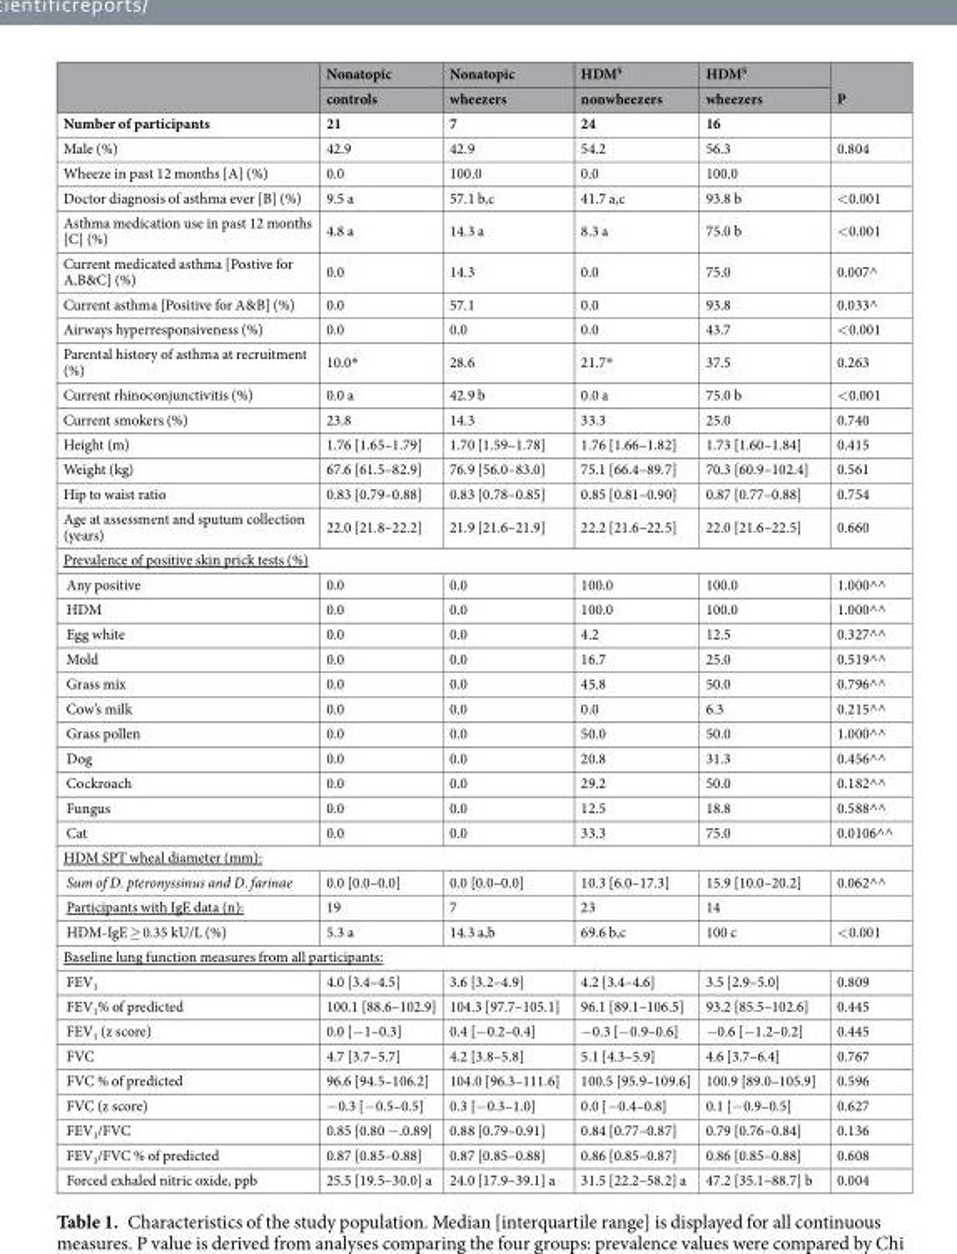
<table><thead><tr><td rowspan="2"></td><td rowspan="2">Nonatopic controls</td><td rowspan="2">Nonatopic wheezers</td><td rowspan="2">HDM<sup>S</sup> nonwheezers</td><td rowspan="2">HDM<sup>S</sup> wheezers</td><td rowspan="2">P</td></tr><tr></tr></thead><tbody><tr><td>Number of participants</td><td>21</td><td>7</td><td>24</td><td>16</td><td></td></tr><tr><td>Male (%)</td><td>42.9</td><td>42.9</td><td>54.2</td><td>56.3</td><td>0.804</td></tr><tr><td>Wheeze in past 12 months [A] (%)</td><td>0.0</td><td>100.0</td><td>0.0</td><td>100.0</td><td></td></tr><tr><td>Doctor diagnosis of asthma ever [B] (%)</td><td>9.5 a</td><td>57.1 b,c</td><td>41.7 a,c</td><td>93.8 b</td><td>&lt;0.001</td></tr><tr><td>Asthma medication use in past 12 months [C] (%)</td><td>4.8 a</td><td>14.3 a</td><td>8.3 a</td><td>75.0 b</td><td>&lt;0.001</td></tr><tr><td>Current medicated asthma [Postive for A,B&amp;C] (%)</td><td>0.0</td><td>14.3</td><td>0.0</td><td>75.0</td><td>0.007^</td></tr><tr><td>Current asthma [Positive for A&amp;B] (%)</td><td>0.0</td><td>57.1</td><td>0.0</td><td>93.8</td><td>0.033^</td></tr><tr><td>Airways hyperresponsiveness (%)</td><td>0.0</td><td>0.0</td><td>0.0</td><td>43.7</td><td>&lt;0.001</td></tr><tr><td>Parental history of asthma at recruitment (%)</td><td>10.0*</td><td>28.6</td><td>21.7*</td><td>37.5</td><td>0.263</td></tr><tr><td>Current rhinoconjunctivitis (%)</td><td>0.0 a</td><td>42.9 b</td><td>0.0 a</td><td>75.0 b</td><td>&lt;0.001</td></tr><tr><td>Current smokers (%)</td><td>23.8</td><td>14.3</td><td>33.3</td><td>25.0</td><td>0.740</td></tr><tr><td>Height (m)</td><td>1.76 [1.65–1.79]</td><td>1.70 [1.59–1.78]</td><td>1.76 [1.66–1.82]</td><td>1.73 [1.60–1.84]</td><td>0.415</td></tr><tr><td>Weight (kg)</td><td>67.6 [61.5–82.9]</td><td>76.9 [56.0–83.0]</td><td>75.1 [66.4–89.7]</td><td>70.3 [60.9–102.4]</td><td>0.561</td></tr><tr><td>Hip to waist ratio</td><td>0.83 [0.79–0.88]</td><td>0.83 [0.78–0.85]</td><td>0.85 [0.81–0.90]</td><td>0.87 [0.77–0.88]</td><td>0.754</td></tr><tr><td>Age at assessment and sputum collection (years)</td><td>22.0 [21.8–22.2]</td><td>21.9 [21.6–21.9]</td><td>22.2 [21.6–22.5]</td><td>22.0 [21.6–22.5]</td><td>0.660</td></tr><tr><td colspan="6">Prevalence of positive skin prick tests (%)</td></tr><tr><td>Any positive</td><td>0.0</td><td>0.0</td><td>100.0</td><td>100.0</td><td>1.000^^</td></tr><tr><td>HDM</td><td>0.0</td><td>0.0</td><td>100.0</td><td>100.0</td><td>1.000^^</td></tr><tr><td>Egg white</td><td>0.0</td><td>0.0</td><td>4.2</td><td>12.5</td><td>0.327^^</td></tr><tr><td>Mold</td><td>0.0</td><td>0.0</td><td>16.7</td><td>25.0</td><td>0.519^^</td></tr><tr><td>Grass mix</td><td>0.0</td><td>0.0</td><td>45.8</td><td>50.0</td><td>0.796^^</td></tr><tr><td>Cow’s milk</td><td>0.0</td><td>0.0</td><td>0.0</td><td>6.3</td><td>0.215^^</td></tr><tr><td>Grass pollen</td><td>0.0</td><td>0.0</td><td>50.0</td><td>50.0</td><td>1.000^^</td></tr><tr><td>Dog</td><td>0.0</td><td>0.0</td><td>20.8</td><td>31.3</td><td>0.456^^</td></tr><tr><td>Cockroach</td><td>0.0</td><td>0.0</td><td>29.2</td><td>50.0</td><td>0.182^^</td></tr><tr><td>Fungus</td><td>0.0</td><td>0.0</td><td>12.5</td><td>18.8</td><td>0.588^^</td></tr><tr><td>Cat</td><td>0.0</td><td>0.0</td><td>33.3</td><td>75.0</td><td>0.0106^^</td></tr><tr><td colspan="6">HDM SPT wheal diameter (mm):</td></tr><tr><td>Sum of D. pteronyssinus and D. farinae</td><td>0.0 [0.0–0.0]</td><td>0.0 [0.0–0.0]</td><td>10.3 [6.0–17.3]</td><td>15.9 [10.0–20.2]</td><td>0.062^^</td></tr><tr><td>Participants with IgE data (n):</td><td>19</td><td>7</td><td>23</td><td>14</td><td></td></tr><tr><td>HDM-IgE ≥ 0.35 kU/L (%)</td><td>5.3 a</td><td>14.3 a,b</td><td>69.6 b,c</td><td>100 c</td><td>&lt;0.001</td></tr><tr><td colspan="6">Baseline lung function measures from all participants:</td></tr><tr><td>FEV<sub>1</sub></td><td>4.0 [3.4–4.5]</td><td>3.6 [3.2–4.9]</td><td>4.2 [3.4–4.6]</td><td>3.5 [2.9–5.0]</td><td>0.809</td></tr><tr><td>FEV<sub>1</sub>% of predicted</td><td>100.1 [88.6–102.9]</td><td>104.3 [97.7–105.1]</td><td>96.1 [89.1–106.5]</td><td>93.2 [85.5–102.6]</td><td>0.445</td></tr><tr><td>FEV<sub>1</sub> (z score)</td><td>0.0 [−1–0.3]</td><td>0.4 [−0.2–0.4]</td><td>−0.3 [−0.9–0.6]</td><td>−0.6 [−1.2–0.2]</td><td>0.445</td></tr><tr><td>FVC</td><td>4.7 [3.7–5.7]</td><td>4.2 [3.8–5.8]</td><td>5.1 [4.3–5.9]</td><td>4.6 [3.7–6.4]</td><td>0.767</td></tr><tr><td>FVC % of predicted</td><td>96.6 [94.5–106.2]</td><td>104.0 [96.3–111.6]</td><td>100.5 [95.9–109.6]</td><td>100.9 [89.0–105.9]</td><td>0.596</td></tr><tr><td>FVC (z score)</td><td>−0.3 [−0.5–0.5]</td><td>0.3 [−0.3–1.0]</td><td>0.0 [−0.4–0.8]</td><td>0.1 [−0.9–0.5]</td><td>0.627</td></tr><tr><td>FEV<sub>1</sub>/FVC</td><td>0.85 [0.80 −.0.89]</td><td>0.88 [0.79–0.91]</td><td>0.84 [0.77–0.87]</td><td>0.79 [0.76–0.84]</td><td>0.136</td></tr><tr><td>FEV<sub>1</sub>/FVC % of predicted</td><td>0.87 [0.85–0.88]</td><td>0.87 [0.85–0.88]</td><td>0.86 [0.85–0.87]</td><td>0.86 [0.85–0.88]</td><td>0.608</td></tr><tr><td>Forced exhaled nitric oxide, ppb</td><td>25.5 [19.5–30.0] a</td><td>24.0 [17.9–39.1] a</td><td>31.5 [22.2–58.2] a</td><td>47.2 [35.1–88.7] b</td><td>0.004</td></tr></tbody></table>